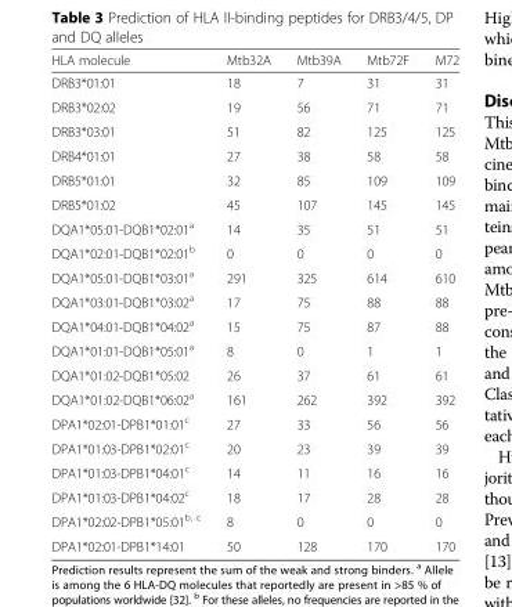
<table><thead><tr><td>HLA molecule</td><td>Mtb32A</td><td>Mtb39A</td><td>Mtb72F</td><td>M72</td></tr></thead><tbody><tr><td>DRB3*01:01</td><td>18</td><td>7</td><td>31</td><td>31</td></tr><tr><td>DRB3*02:02</td><td>19</td><td>56</td><td>71</td><td>71</td></tr><tr><td>DRB3*03:01</td><td>51</td><td>82</td><td>125</td><td>125</td></tr><tr><td>DRB4*01:01</td><td>27</td><td>38</td><td>58</td><td>58</td></tr><tr><td>DRB5*01:01</td><td>32</td><td>85</td><td>109</td><td>109</td></tr><tr><td>DRB5*01:02</td><td>45</td><td>107</td><td>145</td><td>145</td></tr><tr><td>DQA1*05:01-DQB1*02:01<sup>a</sup></td><td>14</td><td>35</td><td>51</td><td>51</td></tr><tr><td>DQA1*02:01-DQB1*02:01<sup>b</sup></td><td>0</td><td>0</td><td>0</td><td>0</td></tr><tr><td>DQA1*05:01-DQB1*03:01<sup>a</sup></td><td>291</td><td>325</td><td>614</td><td>610</td></tr><tr><td>DQA1*03:01-DQB1*03:02<sup>a</sup></td><td>17</td><td>75</td><td>88</td><td>88</td></tr><tr><td>DQA1*04:01-DQB1*04:02<sup>a</sup></td><td>15</td><td>75</td><td>87</td><td>88</td></tr><tr><td>DQA1*01:01-DQB1*05:01<sup>a</sup></td><td>8</td><td>0</td><td>1</td><td>1</td></tr><tr><td>DQA1*01:02-DQB1*05:02</td><td>26</td><td>37</td><td>61</td><td>61</td></tr><tr><td>DQA1*01:02-DQB1*06:02<sup>a</sup></td><td>161</td><td>262</td><td>392</td><td>392</td></tr><tr><td>DPA1*02:01-DPB1*01:01<sup>c</sup></td><td>27</td><td>33</td><td>56</td><td>56</td></tr><tr><td>DPA1*01:03-DPB1*02:01<sup>c</sup></td><td>20</td><td>23</td><td>39</td><td>39</td></tr><tr><td>DPA1*01:03-DPB1*04:01<sup>c</sup></td><td>14</td><td>11</td><td>16</td><td>16</td></tr><tr><td>DPA1*01:03-DPB1*04:02<sup>c</sup></td><td>18</td><td>17</td><td>28</td><td>28</td></tr><tr><td>DPA1*02:02-DPB1*05:01<sup>b, c</sup></td><td>8</td><td>0</td><td>0</td><td>0</td></tr><tr><td>DPA1*02:01-DPB1*14:01</td><td>50</td><td>128</td><td>170</td><td>170</td></tr></tbody></table>